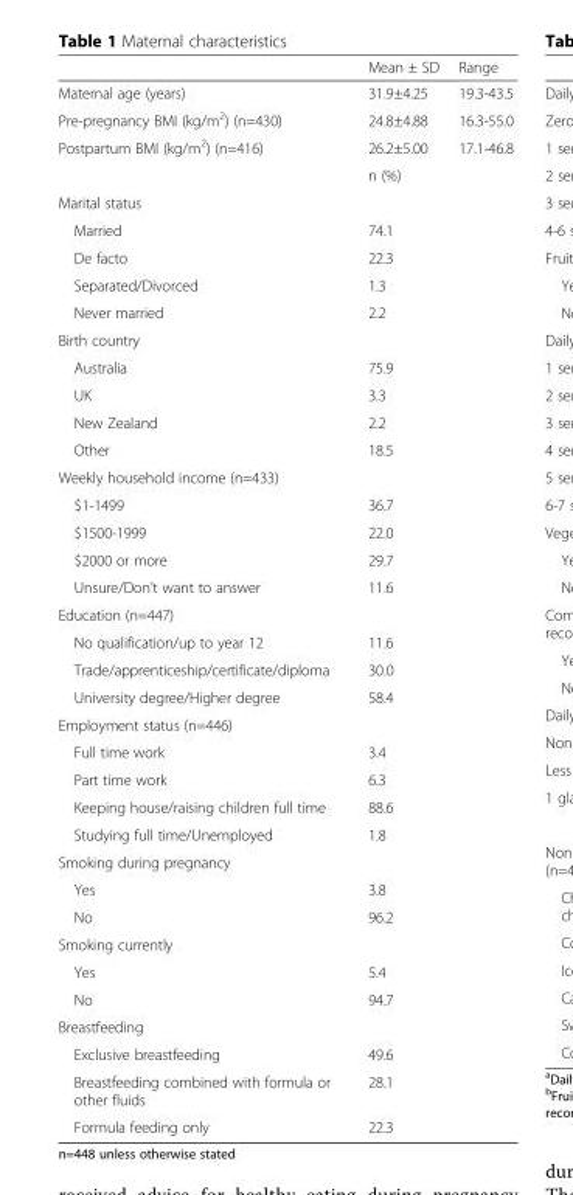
<table><thead><tr><td></td><td>Mean ± SD</td><td>Range</td></tr></thead><tbody><tr><td>Maternal age (years)</td><td>31.9±4.25</td><td>19.3-43.5</td></tr><tr><td>Pre-pregnancy BMI (kg/m<sup>2</sup>) (n=430)</td><td>24.8±4.88</td><td>16.3-55.0</td></tr><tr><td rowspan="2">Postpartum BMI (kg/m<sup>2</sup>) (n=416)</td><td>26.2±5.00</td><td>17.1-46.8</td></tr><tr><td>n (%)</td><td></td></tr><tr><td colspan="3">Marital status</td></tr><tr><td>Married</td><td>74.1</td><td></td></tr><tr><td>De facto</td><td>22.3</td><td></td></tr><tr><td>Separated/Divorced</td><td>1.3</td><td></td></tr><tr><td>Never married</td><td>2.2</td><td></td></tr><tr><td colspan="3">Birth country</td></tr><tr><td>Australia</td><td>75.9</td><td></td></tr><tr><td>UK</td><td>3.3</td><td></td></tr><tr><td>New Zealand</td><td>2.2</td><td></td></tr><tr><td>Other</td><td>18.5</td><td></td></tr><tr><td colspan="3">Weekly household income (n=433)</td></tr><tr><td>$1-1499</td><td>36.7</td><td></td></tr><tr><td>$1500-1999</td><td>22.0</td><td></td></tr><tr><td>$2000 or more</td><td>29.7</td><td></td></tr><tr><td>Unsure/Don’t want to answer</td><td>11.6</td><td></td></tr><tr><td colspan="3">Education (n=447)</td></tr><tr><td>No qualification/up to year 12</td><td>11.6</td><td></td></tr><tr><td>Trade/apprenticeship/certificate/diploma</td><td>30.0</td><td></td></tr><tr><td>University degree/Higher degree</td><td>58.4</td><td></td></tr><tr><td colspan="3">Employment status (n=446)</td></tr><tr><td>Full time work</td><td>3.4</td><td></td></tr><tr><td>Part time work</td><td>6.3</td><td></td></tr><tr><td>Keeping house/raising children full time</td><td>88.6</td><td></td></tr><tr><td>Studying full time/Unemployed</td><td>1.8</td><td></td></tr><tr><td colspan="3">Smoking during pregnancy</td></tr><tr><td>Yes</td><td>3.8</td><td></td></tr><tr><td>No</td><td>96.2</td><td></td></tr><tr><td colspan="3">Smoking currently</td></tr><tr><td>Yes</td><td>5.4</td><td></td></tr><tr><td>No</td><td>94.7</td><td></td></tr><tr><td colspan="3">Breastfeeding</td></tr><tr><td>Exclusive breastfeeding</td><td>49.6</td><td></td></tr><tr><td>Breastfeeding combined with formula or other fluids</td><td>28.1</td><td></td></tr><tr><td>Formula feeding only</td><td>22.3</td><td></td></tr></tbody></table>